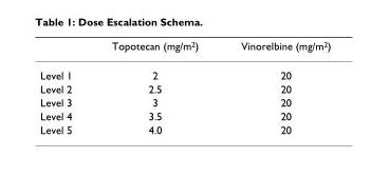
<table><thead><tr><td></td><td>Topotecan (mg/m<sup>2</sup>)</td><td>Vinorelbine (mg/m<sup>2</sup>)</td></tr></thead><tbody><tr><td>Level 1</td><td>2</td><td>20</td></tr><tr><td>Level 2</td><td>2.5</td><td>20</td></tr><tr><td>Level 3</td><td>3</td><td>20</td></tr><tr><td>Level 4</td><td>3.5</td><td>20</td></tr><tr><td>Level 5</td><td>4.0</td><td>20</td></tr></tbody></table>